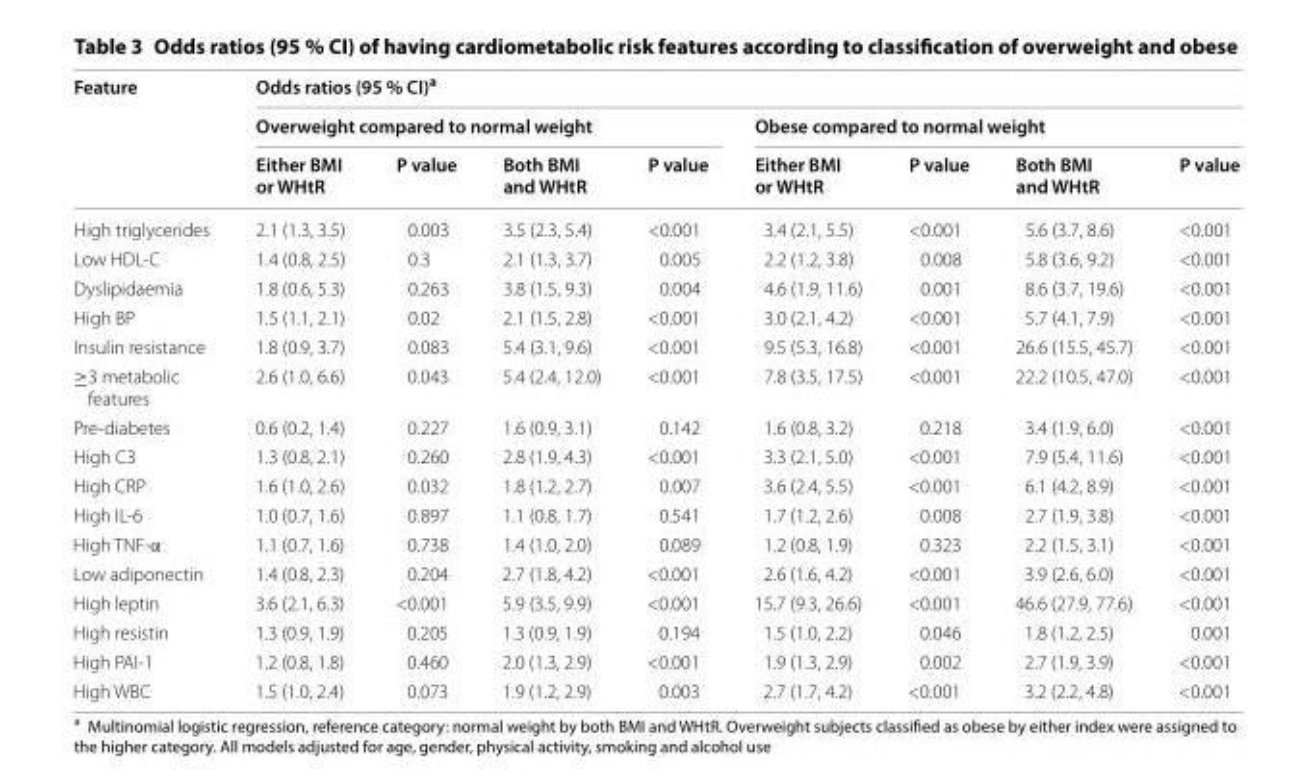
<table><thead><tr><td rowspan="3">Feature</td><td colspan="8">Odds ratios (95 % CI)<sup>a</sup></td></tr><tr><td colspan="4">Overweight compared to normal weight</td><td colspan="4">Obese compared to normal weight</td></tr><tr><td>Either BMI or WHtR</td><td>P value</td><td>Both BMI and WHtR</td><td>P value</td><td>Either BMI or WHtR</td><td>P value</td><td>Both BMI and WHtR</td><td>P value</td></tr></thead><tbody><tr><td>High triglycerides</td><td>2.1 (1.3, 3.5)</td><td>0.003</td><td>3.5 (2.3, 5.4)</td><td>&lt;0.001</td><td>3.4 (2.1, 5.5)</td><td>&lt;0.001</td><td>5.6 (3.7, 8.6)</td><td>&lt;0.001</td></tr><tr><td>Low HDL-C</td><td>1.4 (0.8, 2.5)</td><td>0.3</td><td>2.1 (1.3, 3.7)</td><td>0.005</td><td>2.2 (1.2, 3.8)</td><td>0.008</td><td>5.8 (3.6, 9.2)</td><td>&lt;0.001</td></tr><tr><td>Dyslipidaemia</td><td>1.8 (0.6, 5.3)</td><td>0.263</td><td>3.8 (1.5, 9.3)</td><td>0.004</td><td>4.6 (1.9, 11.6)</td><td>0.001</td><td>8.6 (3.7, 19.6)</td><td>&lt;0.001</td></tr><tr><td>High BP</td><td>1.5 (1.1, 2.1)</td><td>0.02</td><td>2.1 (1.5, 2.8)</td><td>&lt;0.001</td><td>3.0 (2.1, 4.2)</td><td>&lt;0.001</td><td>5.7 (4.1, 7.9)</td><td>&lt;0.001</td></tr><tr><td>Insulin resistance</td><td>1.8 (0.9, 3.7)</td><td>0.083</td><td>5.4 (3.1, 9.6)</td><td>&lt;0.001</td><td>9.5 (5.3, 16.8)</td><td>&lt;0.001</td><td>26.6 (15.5, 45.7)</td><td>&lt;0.001</td></tr><tr><td>≥3 metabolic features</td><td>2.6 (1.0, 6.6)</td><td>0.043</td><td>5.4 (2.4, 12.0)</td><td>&lt;0.001</td><td>7.8 (3.5, 17.5)</td><td>&lt;0.001</td><td>22.2 (10.5, 47.0)</td><td>&lt;0.001</td></tr><tr><td>Pre-diabetes</td><td>0.6 (0.2, 1.4)</td><td>0.227</td><td>1.6 (0.9, 3.1)</td><td>0.142</td><td>1.6 (0.8, 3.2)</td><td>0.218</td><td>3.4 (1.9, 6.0)</td><td>&lt;0.001</td></tr><tr><td>High C3</td><td>1.3 (0.8, 2.1)</td><td>0.260</td><td>2.8 (1.9, 4.3)</td><td>&lt;0.001</td><td>3.3 (2.1, 5.0)</td><td>&lt;0.001</td><td>7.9 (5.4, 11.6)</td><td>&lt;0.001</td></tr><tr><td>High CRP</td><td>1.6 (1.0, 2.6)</td><td>0.032</td><td>1.8 (1.2, 2.7)</td><td>0.007</td><td>3.6 (2.4, 5.5)</td><td>&lt;0.001</td><td>6.1 (4.2, 8.9)</td><td>&lt;0.001</td></tr><tr><td>High IL-6</td><td>1.0 (0.7, 1.6)</td><td>0.897</td><td>1.1 (0.8, 1.7)</td><td>0.541</td><td>1.7 (1.2, 2.6)</td><td>0.008</td><td>2.7 (1.9, 3.8)</td><td>&lt;0.001</td></tr><tr><td>High TNF-α</td><td>1.1 (0.7, 1.6)</td><td>0.738</td><td>1.4 (1.0, 2.0)</td><td>0.089</td><td>1.2 (0.8, 1.9)</td><td>0.323</td><td>2.2 (1.5, 3.1)</td><td>&lt;0.001</td></tr><tr><td>Low adiponectin</td><td>1.4 (0.8, 2.3)</td><td>0.204</td><td>2.7 (1.8, 4.2)</td><td>&lt;0.001</td><td>2.6 (1.6, 4.2)</td><td>&lt;0.001</td><td>3.9 (2.6, 6.0)</td><td>&lt;0.001</td></tr><tr><td>High leptin</td><td>3.6 (2.1, 6.3)</td><td>&lt;0.001</td><td>5.9 (3.5, 9.9)</td><td>&lt;0.001</td><td>15.7 (9.3, 26.6)</td><td>&lt;0.001</td><td>46.6 (27.9, 77.6)</td><td>&lt;0.001</td></tr><tr><td>High resistin</td><td>1.3 (0.9, 1.9)</td><td>0.205</td><td>1.3 (0.9, 1.9)</td><td>0.194</td><td>1.5 (1.0, 2.2)</td><td>0.046</td><td>1.8 (1.2, 2.5)</td><td>0.001</td></tr><tr><td>High PAI-1</td><td>1.2 (0.8, 1.8)</td><td>0.460</td><td>2.0 (1.3, 2.9)</td><td>&lt;0.001</td><td>1.9 (1.3, 2.9)</td><td>0.002</td><td>2.7 (1.9, 3.9)</td><td>&lt;0.001</td></tr><tr><td>High WBC</td><td>1.5 (1.0, 2.4)</td><td>0.073</td><td>1.9 (1.2, 2.9)</td><td>0.003</td><td>2.7 (1.7, 4.2)</td><td>&lt;0.001</td><td>3.2 (2.2, 4.8)</td><td>&lt;0.001</td></tr></tbody></table>